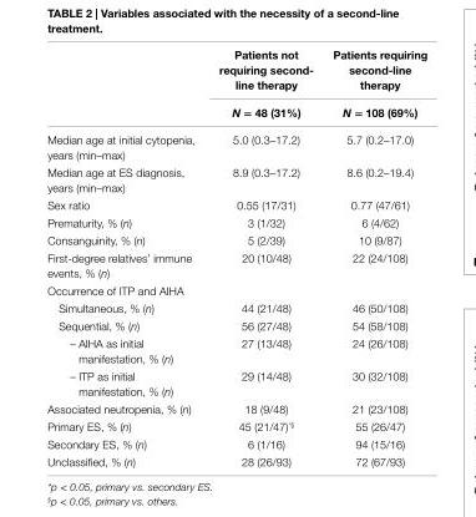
<table><thead><tr><td rowspan="2"></td><td rowspan="2">Patients not requiring second- line therapy N = 48 (31%)</td><td rowspan="2">Patients requiring second-line therapy N = 108 (69%)</td></tr><tr></tr></thead><tbody><tr><td>Median age at initial cytopenia, years (min–max)</td><td>5.0 (0.3–17.2)</td><td>5.7 (0.2–17.0)</td></tr><tr><td>Median age at ES diagnosis, years (min–max)</td><td>8.9 (0.3–17.2)</td><td>8.6 (0.2–19.4)</td></tr><tr><td>Sex ratio</td><td>0.55 (17/31)</td><td>0.77 (47/61)</td></tr><tr><td>Prematurity, % (n)</td><td>3 (1/32)</td><td>6 (4/62)</td></tr><tr><td>Consanguinity, % (n)</td><td>5 (2/39)</td><td>10 (9/87)</td></tr><tr><td>First-degree relatives’ immune events, % (n)</td><td>20 (10/48)</td><td>22 (24/108)</td></tr><tr><td colspan="3">Occurrence of ITP and AIHA</td></tr><tr><td>Simultaneous, % (n)</td><td>44 (21/48)</td><td>46 (50/108)</td></tr><tr><td>Sequential, % (n)</td><td>56 (27/48)</td><td>54 (58/108)</td></tr><tr><td>– AIHA as initial manifestation, % (n)</td><td>27 (13/48)</td><td>24 (26/108)</td></tr><tr><td>– ITP as initial manifestation, % (n)</td><td>29 (14/48)</td><td>30 (32/108)</td></tr><tr><td>Associated neutropenia, % (n)</td><td>18 (9/48)</td><td>21 (23/108)</td></tr><tr><td>Primary ES, % (n)</td><td>45 (21/47)<sup>*§</sup></td><td>55 (26/47)</td></tr><tr><td>Secondary ES, % (n)</td><td>6 (1/16)</td><td>94 (15/16)</td></tr><tr><td>Unclassified, % (n)</td><td>28 (26/93)</td><td>72 (67/93)</td></tr></tbody></table>